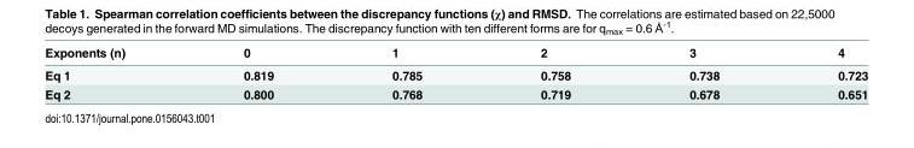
<table><thead><tr><td>Exponents (n)</td><td>0</td><td>1</td><td>2</td><td>3</td><td>4</td></tr></thead><tbody><tr><td>Eq 1</td><td>0.819</td><td>0.785</td><td>0.758</td><td>0.738</td><td>0.723</td></tr><tr><td>Eq 2</td><td>0.800</td><td>0.768</td><td>0.719</td><td>0.678</td><td>0.651</td></tr></tbody></table>